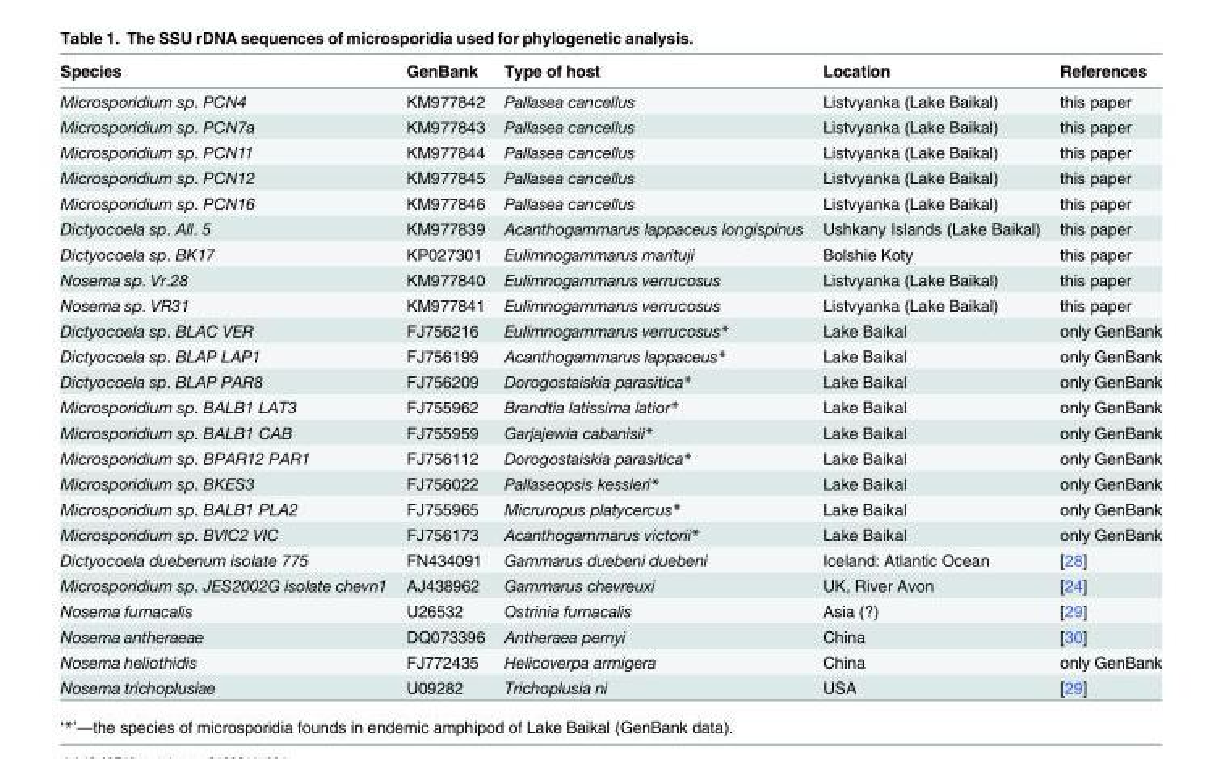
<table><thead><tr><td>Species</td><td>GenBank</td><td>Type of host</td><td>Location</td><td>References</td></tr></thead><tbody><tr><td>Microsporidium sp. PCN4</td><td>KM977842</td><td>Pallasea cancellus</td><td>Listvyanka (Lake Baikal)</td><td>this paper</td></tr><tr><td>Microsporidium sp. PCN7a</td><td>KM977843</td><td>Pallasea cancellus</td><td>Listvyanka (Lake Baikal)</td><td>this paper</td></tr><tr><td>Microsporidium sp. PCN11</td><td>KM977844</td><td>Pallasea cancellus</td><td>Listvyanka (Lake Baikal)</td><td>this paper</td></tr><tr><td>Microsporidium sp. PCN12</td><td>KM977845</td><td>Pallasea cancellus</td><td>Listvyanka (Lake Baikal)</td><td>this paper</td></tr><tr><td>Microsporidium sp. PCN16</td><td>KM977846</td><td>Pallasea cancellus</td><td>Listvyanka (Lake Baikal)</td><td>this paper</td></tr><tr><td>Dictyocoela sp. All. 5</td><td>KM977839</td><td>Acanthogammarus lappaceus longispinus</td><td>Ushkany Islands (Lake Baikal)</td><td>this paper</td></tr><tr><td>Dictyocoela sp. BK17</td><td>KP027301</td><td>Eulimnogammarus marituji</td><td>Bolshie Koty</td><td>this paper</td></tr><tr><td>Nosema sp. Vr.28</td><td>KM977840</td><td>Eulimnogammarus verrucosus</td><td>Listvyanka (Lake Baikal)</td><td>this paper</td></tr><tr><td>Nosema sp. VR31</td><td>KM977841</td><td>Eulimnogammarus verrucosus</td><td>Listvyanka (Lake Baikal)</td><td>this paper</td></tr><tr><td>Dictyocoela sp. BLAC VER</td><td>FJ756216</td><td>Eulimnogammarus verrucosus*</td><td>Lake Baikal</td><td>only GenBank</td></tr><tr><td>Dictyocoela sp. BLAP LAP1</td><td>FJ756199</td><td>Acanthogammarus lappaceus*</td><td>Lake Baikal</td><td>only GenBank</td></tr><tr><td>Dictyocoela sp. BLAP PAR8</td><td>FJ756209</td><td>Dorogostaiskia parasitica*</td><td>Lake Baikal</td><td>only GenBank</td></tr><tr><td>Microsporidium sp. BALB1 LAT3</td><td>FJ755962</td><td>Brandtia latissima latior*</td><td>Lake Baikal</td><td>only GenBank</td></tr><tr><td>Microsporidium sp. BALB1 CAB</td><td>FJ755959</td><td>Garjajewia cabanisii*</td><td>Lake Baikal</td><td>only GenBank</td></tr><tr><td>Microsporidium sp. BPAR12 PAR1</td><td>FJ756112</td><td>Dorogostaiskia parasitica*</td><td>Lake Baikal</td><td>only GenBank</td></tr><tr><td>Microsporidium sp. BKES3</td><td>FJ756022</td><td>Pallaseopsis kessleri*</td><td>Lake Baikal</td><td>only GenBank</td></tr><tr><td>Microsporidium sp. BALB1 PLA2</td><td>FJ755965</td><td>Micruropus platycercus*</td><td>Lake Baikal</td><td>only GenBank</td></tr><tr><td>Microsporidium sp. BVIC2 VIC</td><td>FJ756173</td><td>Acanthogammarus victorii*</td><td>Lake Baikal</td><td>only GenBank</td></tr><tr><td>Dictyocoela duebenum isolate 775</td><td>FN434091</td><td>Gammarus duebeni duebeni</td><td>Iceland: Atlantic Ocean</td><td>[28]</td></tr><tr><td>Microsporidium sp. JES2002G isolate chevn1</td><td>AJ438962</td><td>Gammarus chevreuxi</td><td>UK, River Avon</td><td>[24]</td></tr><tr><td>Nosema furnacalis</td><td>U26532</td><td>Ostrinia furnacalis</td><td>Asia (?)</td><td>[29]</td></tr><tr><td>Nosema antheraeae</td><td>DQ073396</td><td>Antheraea pernyi</td><td>China</td><td>[30]</td></tr><tr><td>Nosema heliothidis</td><td>FJ772435</td><td>Helicoverpa armigera</td><td>China</td><td>only GenBank</td></tr><tr><td>Nosema trichoplusiae</td><td>U09282</td><td>Trichoplusia ni</td><td>USA</td><td>[29]</td></tr></tbody></table>